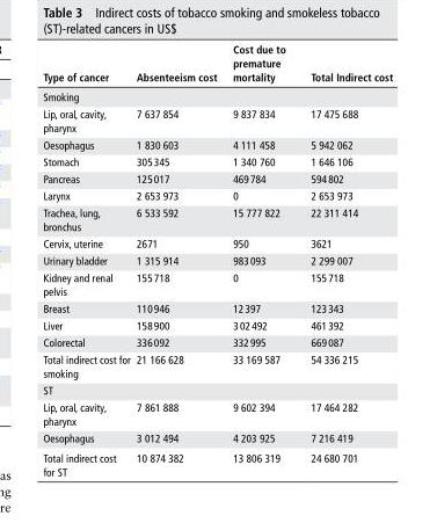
<table><thead><tr><td>Type of cancer</td><td>Absenteeism cost</td><td>Cost due to premature mortality</td><td>Total Indirect cost</td></tr></thead><tbody><tr><td colspan="4">Smoking</td></tr><tr><td>Lip, oral, cavity, pharynx</td><td>7 637 854</td><td>9 837 834</td><td>17 475 688</td></tr><tr><td>Oesophagus</td><td>1 830 603</td><td>4 111 458</td><td>5 942 062</td></tr><tr><td>Stomach</td><td>305 345</td><td>1 340 760</td><td>1 646 106</td></tr><tr><td>Pancreas</td><td>125 017</td><td>469 784</td><td>594 802</td></tr><tr><td>Larynx</td><td>2 653 973</td><td>0</td><td>2 653 973</td></tr><tr><td>Trachea, lung, bronchus</td><td>6 533 592</td><td>15 777 822</td><td>22 311 414</td></tr><tr><td>Cervix, uterine</td><td>2671</td><td>950</td><td>3621</td></tr><tr><td>Urinary bladder</td><td>1 315 914</td><td>983 093</td><td>2 299 007</td></tr><tr><td>Kidney and renal pelvis</td><td>155 718</td><td>0</td><td>155 718</td></tr><tr><td>Breast</td><td>110 946</td><td>12 397</td><td>123 343</td></tr><tr><td>Liver</td><td>158 900</td><td>3 02 492</td><td>461 392</td></tr><tr><td>Colorectal</td><td>336 092</td><td>332 995</td><td>669 087</td></tr><tr><td>Total indirect cost for smoking</td><td>21 166 628</td><td>33 169 587</td><td>54 336 215</td></tr><tr><td colspan="4">ST</td></tr><tr><td>Lip, oral, cavity, pharynx</td><td>7 861 888</td><td>9 602 394</td><td>17 464 282</td></tr><tr><td>Oesophagus</td><td>3 012 494</td><td>4 203 925</td><td>7 216 419</td></tr><tr><td>Total indirect cost for ST</td><td>10 874 382</td><td>13 806 319</td><td>24 680 701</td></tr></tbody></table>